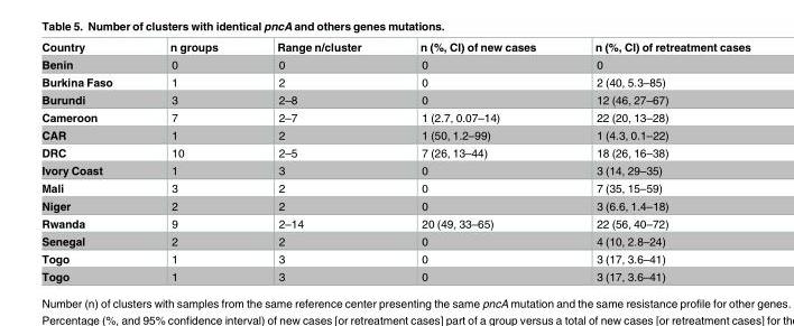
<table><thead><tr><td>Country</td><td>n groups</td><td>Range n/cluster</td><td>n (%, CI) of new cases</td><td>n (%, CI) of retreatment cases</td></tr></thead><tbody><tr><td>Benin</td><td>0</td><td>0</td><td>0</td><td>0</td></tr><tr><td>Burkina Faso</td><td>1</td><td>2</td><td>0</td><td>2 (40, 5.3–85)</td></tr><tr><td>Burundi</td><td>3</td><td>2–8</td><td>0</td><td>12 (46, 27–67)</td></tr><tr><td>Cameroon</td><td>7</td><td>2–7</td><td>1 (2.7, 0.07–14)</td><td>22 (20, 13–28)</td></tr><tr><td>CAR</td><td>1</td><td>2</td><td>1 (50, 1.2–99)</td><td>1 (4.3, 0.1–22)</td></tr><tr><td>DRC</td><td>10</td><td>2–5</td><td>7 (26, 13–44)</td><td>18 (26, 16–38)</td></tr><tr><td>Ivory Coast</td><td>1</td><td>3</td><td>0</td><td>3 (14, 29–35)</td></tr><tr><td>Mali</td><td>3</td><td>2</td><td>0</td><td>7 (35, 15–59)</td></tr><tr><td>Niger</td><td>2</td><td>2</td><td>0</td><td>3 (6.6, 1.4–18)</td></tr><tr><td>Rwanda</td><td>9</td><td>2–14</td><td>20 (49, 33–65)</td><td>22 (56, 40–72)</td></tr><tr><td>Senegal</td><td>2</td><td>2</td><td>0</td><td>4 (10, 2.8–24)</td></tr><tr><td>Togo</td><td>1</td><td>3</td><td>0</td><td>3 (17, 3.6–41)</td></tr><tr><td>Togo</td><td>1</td><td>3</td><td>0</td><td>3 (17, 3.6–41)</td></tr></tbody></table>